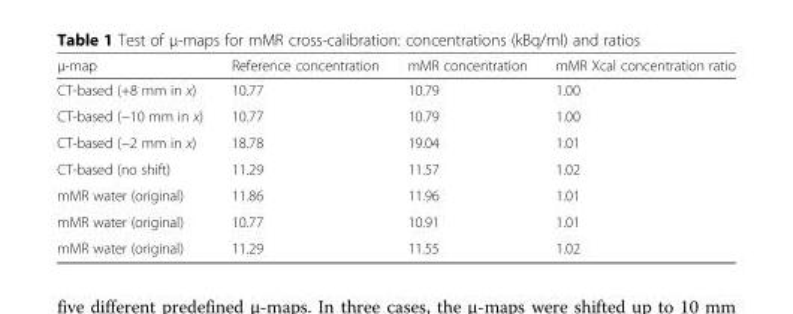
<table><thead><tr><td>μ-map</td><td>Reference concentration</td><td>mMR concentration</td><td>mMR Xcal concentration ratio</td></tr></thead><tbody><tr><td>CT-based (+8 mm in x)</td><td>10.77</td><td>10.79</td><td>1.00</td></tr><tr><td>CT-based (−10 mm in x)</td><td>10.77</td><td>10.79</td><td>1.00</td></tr><tr><td>CT-based (−2 mm in x)</td><td>18.78</td><td>19.04</td><td>1.01</td></tr><tr><td>CT-based (no shift)</td><td>11.29</td><td>11.57</td><td>1.02</td></tr><tr><td>mMR water (original)</td><td>11.86</td><td>11.96</td><td>1.01</td></tr><tr><td>mMR water (original)</td><td>10.77</td><td>10.91</td><td>1.01</td></tr><tr><td>mMR water (original)</td><td>11.29</td><td>11.55</td><td>1.02</td></tr></tbody></table>